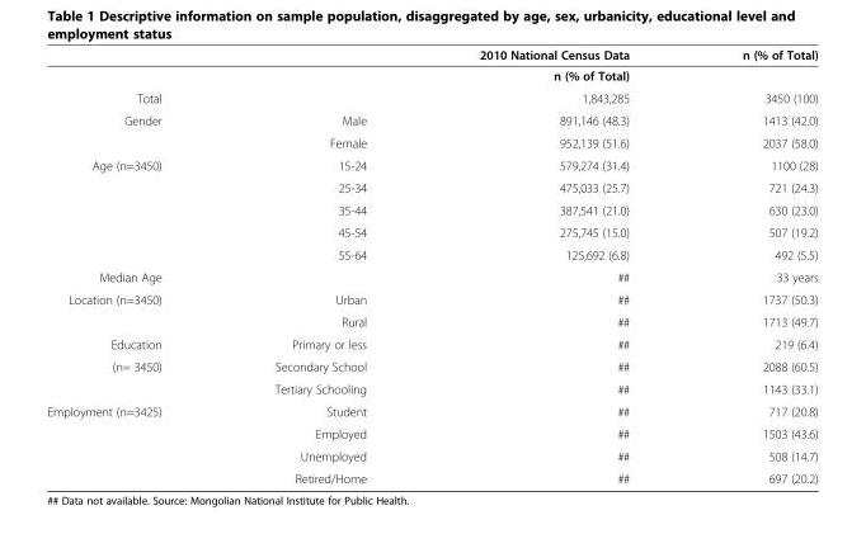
<table><thead><tr><td></td><td></td><td>2010 National Census Data</td><td>n (% of Total)</td></tr></thead><tbody><tr><td colspan="2"></td><td>n (% of Total)</td><td></td></tr><tr><td>Total</td><td></td><td>1,843,285</td><td>3450 (100)</td></tr><tr><td rowspan="2">Gender</td><td>Male</td><td>891,146 (48.3)</td><td>1413 (42.0)</td></tr><tr><td>Female</td><td>952,139 (51.6)</td><td>2037 (58.0)</td></tr><tr><td rowspan="5">Age (n=3450)</td><td>15-24</td><td>579,274 (31.4)</td><td>1100 (28)</td></tr><tr><td>25-34</td><td>475,033 (25.7)</td><td>721 (24.3)</td></tr><tr><td>35-44</td><td>387,541 (21.0)</td><td>630 (23.0)</td></tr><tr><td>45-54</td><td>275,745 (15.0)</td><td>507 (19.2)</td></tr><tr><td>55-64</td><td>125,692 (6.8)</td><td>492 (5.5)</td></tr><tr><td>Median Age</td><td></td><td>##</td><td>33 years</td></tr><tr><td rowspan="2">Location (n=3450)</td><td>Urban</td><td>##</td><td>1737 (50.3)</td></tr><tr><td>Rural</td><td>##</td><td>1713 (49.7)</td></tr><tr><td>Education</td><td>Primary or less</td><td>##</td><td>219 (6.4)</td></tr><tr><td rowspan="2">(n= 3450)</td><td>Secondary School</td><td>##</td><td>2088 (60.5)</td></tr><tr><td>Tertiary Schooling</td><td>##</td><td>1143 (33.1)</td></tr><tr><td rowspan="4">Employment (n=3425)</td><td>Student</td><td>##</td><td>717 (20.8)</td></tr><tr><td>Employed</td><td>##</td><td>1503 (43.6)</td></tr><tr><td>Unemployed</td><td>##</td><td>508 (14.7)</td></tr><tr><td>Retired/Home</td><td>##</td><td>697 (20.2)</td></tr></tbody></table>